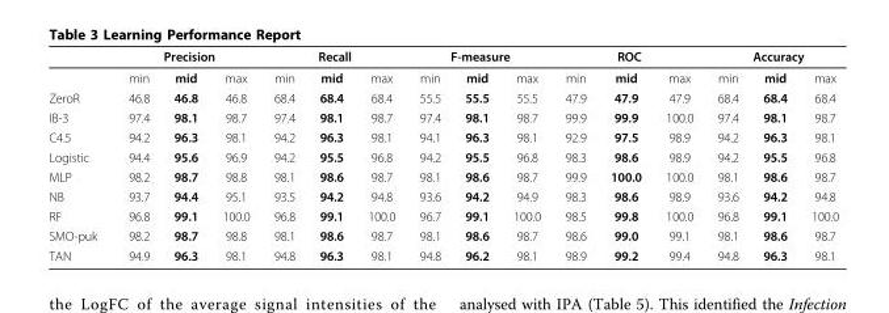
<table><thead><tr><td rowspan="2"></td><td colspan="3">Precision</td><td colspan="3">Recall</td><td colspan="3">F-measure</td><td colspan="3">ROC</td><td colspan="3">Accuracy</td></tr><tr><td>min</td><td>mid</td><td>max</td><td>min</td><td>mid</td><td>max</td><td>min</td><td>mid</td><td>max</td><td>min</td><td>mid</td><td>max</td><td>min</td><td>mid</td><td>max</td></tr></thead><tbody><tr><td>ZeroR</td><td>46.8</td><td>46.8</td><td>46.8</td><td>68.4</td><td>68.4</td><td>68.4</td><td>55.5</td><td>55.5</td><td>55.5</td><td>47.9</td><td>47.9</td><td>47.9</td><td>68.4</td><td>68.4</td><td>68.4</td></tr><tr><td>IB-3</td><td>97.4</td><td>98.1</td><td>98.7</td><td>97.4</td><td>98.1</td><td>98.7</td><td>97.4</td><td>98.1</td><td>98.7</td><td>99.9</td><td>99.9</td><td>100.0</td><td>97.4</td><td>98.1</td><td>98.7</td></tr><tr><td>C4.5</td><td>94.2</td><td>96.3</td><td>98.1</td><td>94.2</td><td>96.3</td><td>98.1</td><td>94.1</td><td>96.3</td><td>98.1</td><td>92.9</td><td>97.5</td><td>98.9</td><td>94.2</td><td>96.3</td><td>98.1</td></tr><tr><td>Logistic</td><td>94.4</td><td>95.6</td><td>96.9</td><td>94.2</td><td>95.5</td><td>96.8</td><td>94.2</td><td>95.5</td><td>96.8</td><td>98.3</td><td>98.6</td><td>98.9</td><td>94.2</td><td>95.5</td><td>96.8</td></tr><tr><td>MLP</td><td>98.2</td><td>98.7</td><td>98.8</td><td>98.1</td><td>98.6</td><td>98.7</td><td>98.1</td><td>98.6</td><td>98.7</td><td>99.9</td><td>100.0</td><td>100.0</td><td>98.1</td><td>98.6</td><td>98.7</td></tr><tr><td>NB</td><td>93.7</td><td>94.4</td><td>95.1</td><td>93.5</td><td>94.2</td><td>94.8</td><td>93.6</td><td>94.2</td><td>94.9</td><td>98.3</td><td>98.6</td><td>98.9</td><td>93.6</td><td>94.2</td><td>94.8</td></tr><tr><td>RF</td><td>96.8</td><td>99.1</td><td>100.0</td><td>96.8</td><td>99.1</td><td>100.0</td><td>96.7</td><td>99.1</td><td>100.0</td><td>98.5</td><td>99.8</td><td>100.0</td><td>96.8</td><td>99.1</td><td>100.0</td></tr><tr><td>SMO-puk</td><td>98.2</td><td>98.7</td><td>98.8</td><td>98.1</td><td>98.6</td><td>98.7</td><td>98.1</td><td>98.6</td><td>98.7</td><td>98.6</td><td>99.0</td><td>99.1</td><td>98.1</td><td>98.6</td><td>98.7</td></tr><tr><td>TAN</td><td>94.9</td><td>96.3</td><td>98.1</td><td>94.8</td><td>96.3</td><td>98.1</td><td>94.8</td><td>96.2</td><td>98.1</td><td>98.9</td><td>99.2</td><td>99.4</td><td>94.8</td><td>96.3</td><td>98.1</td></tr></tbody></table>